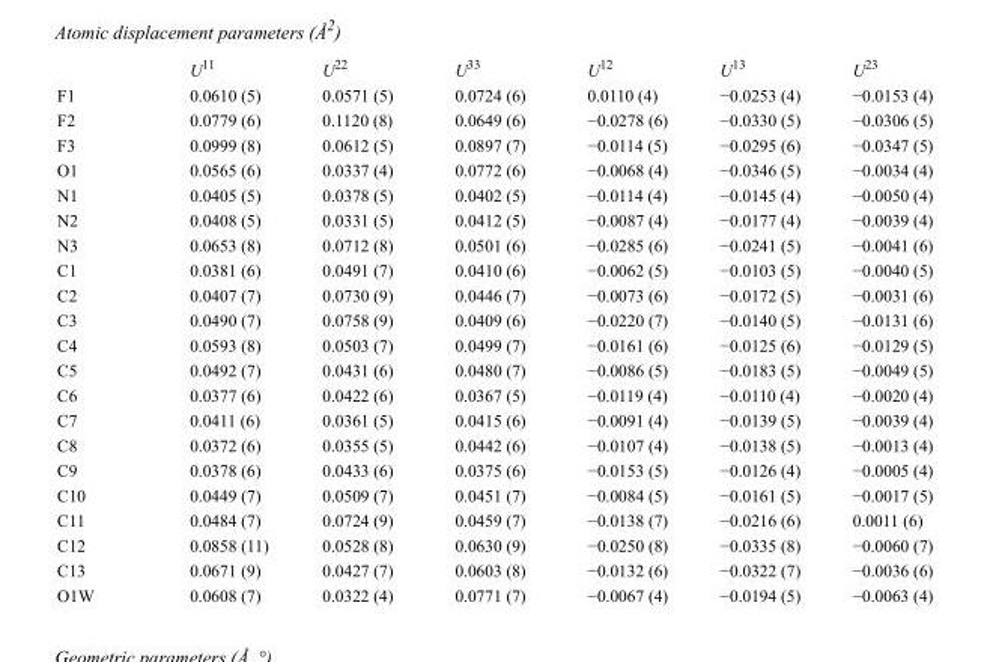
<table><thead><tr><td></td><td>U<sup>11</sup></td><td>U<sup>22</sup></td><td>U<sup>33</sup></td><td>U<sup>12</sup></td><td>U<sup>13</sup></td><td>U<sup>23</sup></td></tr></thead><tbody><tr><td>F1</td><td>0.0610 (5)</td><td>0.0571 (5)</td><td>0.0724 (6)</td><td>0.0110 (4)</td><td>−0.0253 (4)</td><td>−0.0153 (4)</td></tr><tr><td>F2</td><td>0.0779 (6)</td><td>0.1120 (8)</td><td>0.0649 (6)</td><td>−0.0278 (6)</td><td>−0.0330 (5)</td><td>−0.0306 (5)</td></tr><tr><td>F3</td><td>0.0999 (8)</td><td>0.0612 (5)</td><td>0.0897 (7)</td><td>−0.0114 (5)</td><td>−0.0295 (6)</td><td>−0.0347 (5)</td></tr><tr><td>O1</td><td>0.0565 (6)</td><td>0.0337 (4)</td><td>0.0772 (6)</td><td>−0.0068 (4)</td><td>−0.0346 (5)</td><td>−0.0034 (4)</td></tr><tr><td>N1</td><td>0.0405 (5)</td><td>0.0378 (5)</td><td>0.0402 (5)</td><td>−0.0114 (4)</td><td>−0.0145 (4)</td><td>−0.0050 (4)</td></tr><tr><td>N2</td><td>0.0408 (5)</td><td>0.0331 (5)</td><td>0.0412 (5)</td><td>−0.0087 (4)</td><td>−0.0177 (4)</td><td>−0.0039 (4)</td></tr><tr><td>N3</td><td>0.0653 (8)</td><td>0.0712 (8)</td><td>0.0501 (6)</td><td>−0.0285 (6)</td><td>−0.0241 (5)</td><td>−0.0041 (6)</td></tr><tr><td>C1</td><td>0.0381 (6)</td><td>0.0491 (7)</td><td>0.0410 (6)</td><td>−0.0062 (5)</td><td>−0.0103 (5)</td><td>−0.0040 (5)</td></tr><tr><td>C2</td><td>0.0407 (7)</td><td>0.0730 (9)</td><td>0.0446 (7)</td><td>−0.0073 (6)</td><td>−0.0172 (5)</td><td>−0.0031 (6)</td></tr><tr><td>C3</td><td>0.0490 (7)</td><td>0.0758 (9)</td><td>0.0409 (6)</td><td>−0.0220 (7)</td><td>−0.0140 (5)</td><td>−0.0131 (6)</td></tr><tr><td>C4</td><td>0.0593 (8)</td><td>0.0503 (7)</td><td>0.0499 (7)</td><td>−0.0161 (6)</td><td>−0.0125 (6)</td><td>−0.0129 (5)</td></tr><tr><td>C5</td><td>0.0492 (7)</td><td>0.0431 (6)</td><td>0.0480 (7)</td><td>−0.0086 (5)</td><td>−0.0183 (5)</td><td>−0.0049 (5)</td></tr><tr><td>C6</td><td>0.0377 (6)</td><td>0.0422 (6)</td><td>0.0367 (5)</td><td>−0.0119 (4)</td><td>−0.0110 (4)</td><td>−0.0020 (4)</td></tr><tr><td>C7</td><td>0.0411 (6)</td><td>0.0361 (5)</td><td>0.0415 (6)</td><td>−0.0091 (4)</td><td>−0.0139 (5)</td><td>−0.0039 (4)</td></tr><tr><td>C8</td><td>0.0372 (6)</td><td>0.0355 (5)</td><td>0.0442 (6)</td><td>−0.0107 (4)</td><td>−0.0138 (5)</td><td>−0.0013 (4)</td></tr><tr><td>C9</td><td>0.0378 (6)</td><td>0.0433 (6)</td><td>0.0375 (6)</td><td>−0.0153 (5)</td><td>−0.0126 (4)</td><td>−0.0005 (4)</td></tr><tr><td>C10</td><td>0.0449 (7)</td><td>0.0509 (7)</td><td>0.0451 (7)</td><td>−0.0084 (5)</td><td>−0.0161 (5)</td><td>−0.0017 (5)</td></tr><tr><td>C11</td><td>0.0484 (7)</td><td>0.0724 (9)</td><td>0.0459 (7)</td><td>−0.0138 (7)</td><td>−0.0216 (6)</td><td>0.0011 (6)</td></tr><tr><td>C12</td><td>0.0858 (11)</td><td>0.0528 (8)</td><td>0.0630 (9)</td><td>−0.0250 (8)</td><td>−0.0335 (8)</td><td>−0.0060 (7)</td></tr><tr><td>C13</td><td>0.0671 (9)</td><td>0.0427 (7)</td><td>0.0603 (8)</td><td>−0.0132 (6)</td><td>−0.0322 (7)</td><td>−0.0036 (6)</td></tr><tr><td>O1W</td><td>0.0608 (7)</td><td>0.0322 (4)</td><td>0.0771 (7)</td><td>−0.0067 (4)</td><td>−0.0194 (5)</td><td>−0.0063 (4)</td></tr></tbody></table>